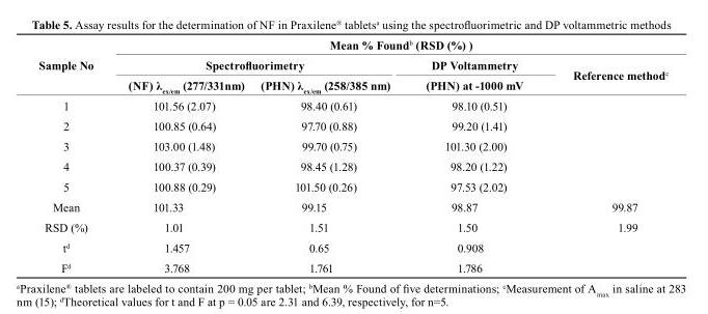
<table><thead><tr><td rowspan="3">Sample No</td><td colspan="4">Mean % Foundb (RSD (%) )</td></tr><tr><td colspan="2">Spectrofluorimetry</td><td rowspan="2">DP Voltammetry (PHN) at -1000 mV</td><td rowspan="2">reference methodc</td></tr><tr><td>(NF) λex/em (277/331nm)</td><td>(PHN) λex/em (258/385 nm)</td></tr></thead><tbody><tr><td>1</td><td>101.56 (2.07)</td><td>98.40 (0.61)</td><td>98.10 (0.51)</td><td rowspan="5"></td></tr><tr><td>2</td><td>100.85 (0.64)</td><td>97.70 (0.88)</td><td>99.20 (1.41)</td></tr><tr><td>3</td><td>103.00 (1.48)</td><td>99.70 (0.75)</td><td>101.30 (2.00)</td></tr><tr><td>4</td><td>100.37 (0.39)</td><td>98.45 (1.28)</td><td>98.20 (1.22)</td></tr><tr><td>5</td><td>100.88 (0.29)</td><td>101.50 (0.26)</td><td>97.53 (2.02)</td></tr><tr><td>Mean</td><td>101.33</td><td>99.15</td><td>98.87</td><td>99.87</td></tr><tr><td>RSD (%)</td><td>1.01</td><td>1.51</td><td>1.50</td><td>1.99</td></tr><tr><td>t<sup>d</sup></td><td>1.457</td><td>0.65</td><td>0.908</td><td></td></tr><tr><td>F<sup>d</sup></td><td>3.768</td><td>1.761</td><td>1.786</td><td></td></tr></tbody></table>